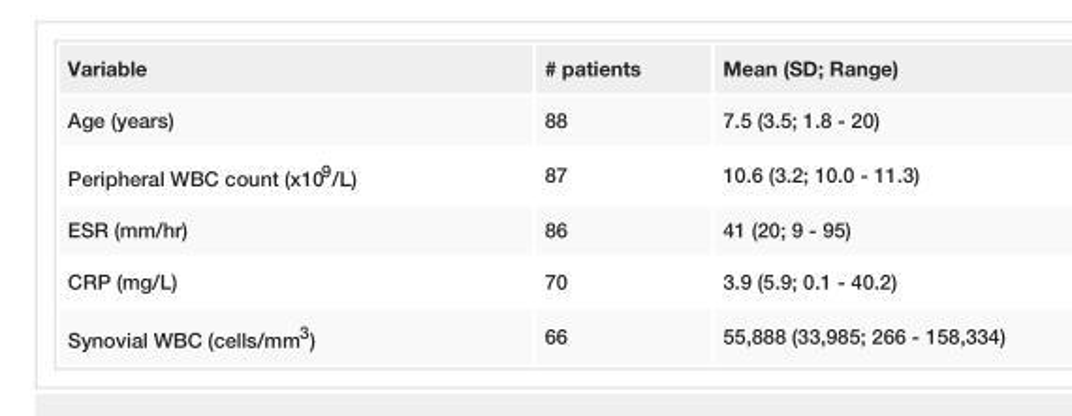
<table><tbody><tr><td>Variable</td><td># patients</td><td>Mean (SD; Range)</td></tr><tr><td>Age (years)</td><td>88</td><td>7.5 (3.5; 1.8 - 20)</td></tr><tr><td>Peripheral WBC count (x10<sup>9</sup>/L)</td><td>87</td><td>10.6 (3.2; 10.0 - 11.3)</td></tr><tr><td>ESR (mm/hr)</td><td>86</td><td>41 (20; 9 - 95)</td></tr><tr><td>CRP (mg/L)</td><td>70</td><td>3.9 (5.9; 0.1 - 40.2)</td></tr><tr><td>Synovial WBC (cells/mm<sup>3</sup>)</td><td>66</td><td>55,888 (33,985; 266 - 158,334)</td></tr></tbody></table>